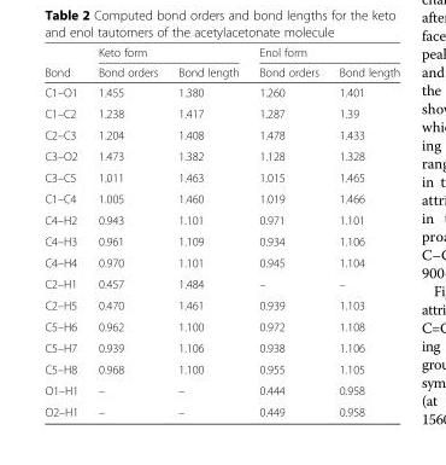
<table><thead><tr><td rowspan="2">Bond</td><td colspan="2">Keto form</td><td colspan="2">Enol form</td></tr><tr><td>Bond orders</td><td>Bond length</td><td>Bond orders</td><td>Bond length</td></tr></thead><tbody><tr><td>C1–O1</td><td>1.455</td><td>1.380</td><td>1.260</td><td>1.401</td></tr><tr><td>C1–C2</td><td>1.238</td><td>1.417</td><td>1.287</td><td>1.39</td></tr><tr><td>C2–C3</td><td>1.204</td><td>1.408</td><td>1.478</td><td>1.433</td></tr><tr><td>C3–O2</td><td>1.473</td><td>1.382</td><td>1.128</td><td>1.328</td></tr><tr><td>C3–C5</td><td>1.011</td><td>1.463</td><td>1.015</td><td>1.465</td></tr><tr><td>C1–C4</td><td>1.005</td><td>1.460</td><td>1.019</td><td>1.466</td></tr><tr><td>C4–H2</td><td>0.943</td><td>1.101</td><td>0.971</td><td>1.101</td></tr><tr><td>C4–H3</td><td>0.961</td><td>1.109</td><td>0.934</td><td>1.106</td></tr><tr><td>C4–H4</td><td>0.970</td><td>1.101</td><td>0.945</td><td>1.104</td></tr><tr><td>C2–H1</td><td>0.457</td><td>1.484</td><td>–</td><td>–</td></tr><tr><td>C2–H5</td><td>0.470</td><td>1.461</td><td>0.939</td><td>1.103</td></tr><tr><td>C5–H6</td><td>0.962</td><td>1.100</td><td>0.972</td><td>1.108</td></tr><tr><td>C5–H7</td><td>0.939</td><td>1.106</td><td>0.938</td><td>1.106</td></tr><tr><td>C5–H8</td><td>0.968</td><td>1.100</td><td>0.955</td><td>1.105</td></tr><tr><td>O1–H1</td><td>–</td><td>–</td><td>0.444</td><td>0.958</td></tr><tr><td>O2–H1</td><td>–</td><td>–</td><td>0.449</td><td>0.958</td></tr></tbody></table>